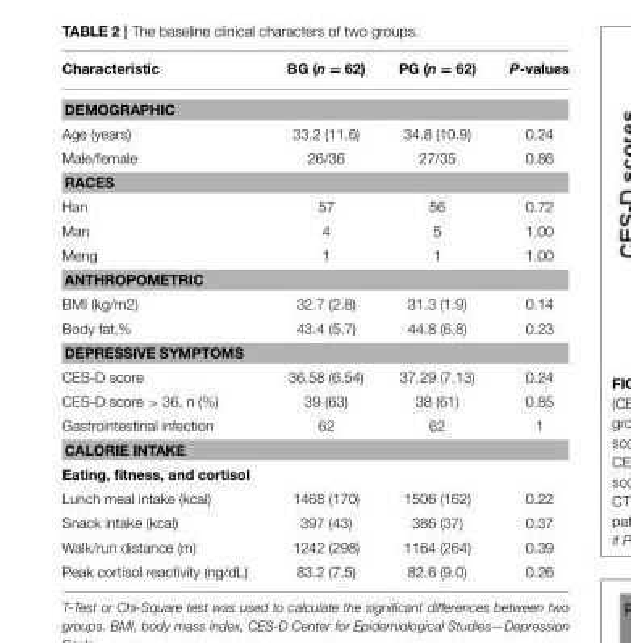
<table><thead><tr><td>Characteristic</td><td>BG (n = 62)</td><td>PG (n = 62)</td><td>P-values</td></tr></thead><tbody><tr><td colspan="4">DEMOGRAPHIC</td></tr><tr><td>Age (years)</td><td>33.2 (11.6)</td><td>34.8 (10.9)</td><td>0.24</td></tr><tr><td>Male/female</td><td>26/36</td><td>27/35</td><td>0.86</td></tr><tr><td colspan="4">RACES</td></tr><tr><td>Han</td><td>57</td><td>56</td><td>0.72</td></tr><tr><td>Man</td><td>4</td><td>5</td><td>1.00</td></tr><tr><td>Meng</td><td>1</td><td>1</td><td>1.00</td></tr><tr><td colspan="4">ANTHROPOMETRIC</td></tr><tr><td>BMI (kg/m2)</td><td>32.7 (2.8)</td><td>31.3 (1.9)</td><td>0.14</td></tr><tr><td>Body fat,%</td><td>43.4 (5.7)</td><td>44.8 (6.8)</td><td>0.23</td></tr><tr><td colspan="4">DEPRESSIVE SYMPTOMS</td></tr><tr><td>CES-D score</td><td>36.58 (6.54)</td><td>37.29 (7.13)</td><td>0.24</td></tr><tr><td>CES-D score &gt; 36, n (%)</td><td>39 (63)</td><td>38 (61)</td><td>0.85</td></tr><tr><td>Gastrointestinal infection</td><td>62</td><td>62</td><td>1</td></tr><tr><td colspan="4">CALORIE INTAKE</td></tr><tr><td colspan="4">Eating, fitness, and cortisol</td></tr><tr><td>Lunch meal intake (kcal)</td><td>1468 (170)</td><td>1506 (162)</td><td>0.22</td></tr><tr><td>Snack intake (kcal)</td><td>397 (43)</td><td>386 (37)</td><td>0.37</td></tr><tr><td>Walk/run distance (m)</td><td>1242 (298)</td><td>1164 (264)</td><td>0.39</td></tr><tr><td>Peak cortisol reactivity (ng/dL)</td><td>83.2 (7.5)</td><td>82.6 (9.0)</td><td>0.26</td></tr></tbody></table>